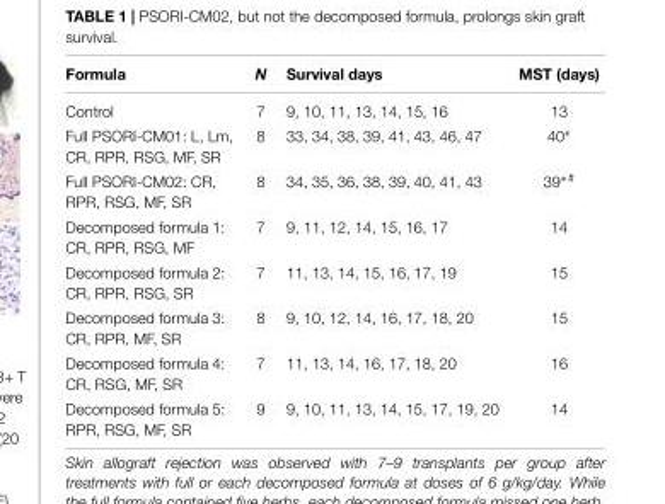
<table><thead><tr><td>Formula</td><td>N</td><td>Survival days</td><td>MST (days)</td></tr></thead><tbody><tr><td>Control</td><td>7</td><td>9, 10, 11, 13, 14, 15, 16</td><td>13</td></tr><tr><td>Full PSORI-CM01: L, Lm, CR, RPR, RSG, MF, SR</td><td>8</td><td>33, 34, 38, 39, 41, 43, 46, 47</td><td>40∗</td></tr><tr><td>Full PSORI-CM02: CR, RPR, RSG, MF, SR</td><td>8</td><td>34, 35, 36, 38, 39, 40, 41, 43</td><td>39<sup>∗#</sup></td></tr><tr><td>Decomposed formula 1: CR, RPR, RSG, MF</td><td>7</td><td>9, 11, 12, 14, 15, 16, 17</td><td>14</td></tr><tr><td>Decomposed formula 2: CR, RPR, RSG, SR</td><td>7</td><td>11, 13, 14, 15, 16, 17, 19</td><td>15</td></tr><tr><td>Decomposed formula 3: CR, RPR, MF, SR</td><td>8</td><td>9, 10, 12, 14, 16, 17, 18, 20</td><td>15</td></tr><tr><td>Decomposed formula 4: CR, RSG, MF, SR</td><td>7</td><td>11, 13, 14, 16, 17, 18, 20</td><td>16</td></tr><tr><td>Decomposed formula 5: RPR, RSG, MF, SR</td><td>9</td><td>9, 10, 11, 13, 14, 15, 17, 19, 20</td><td>14</td></tr></tbody></table>